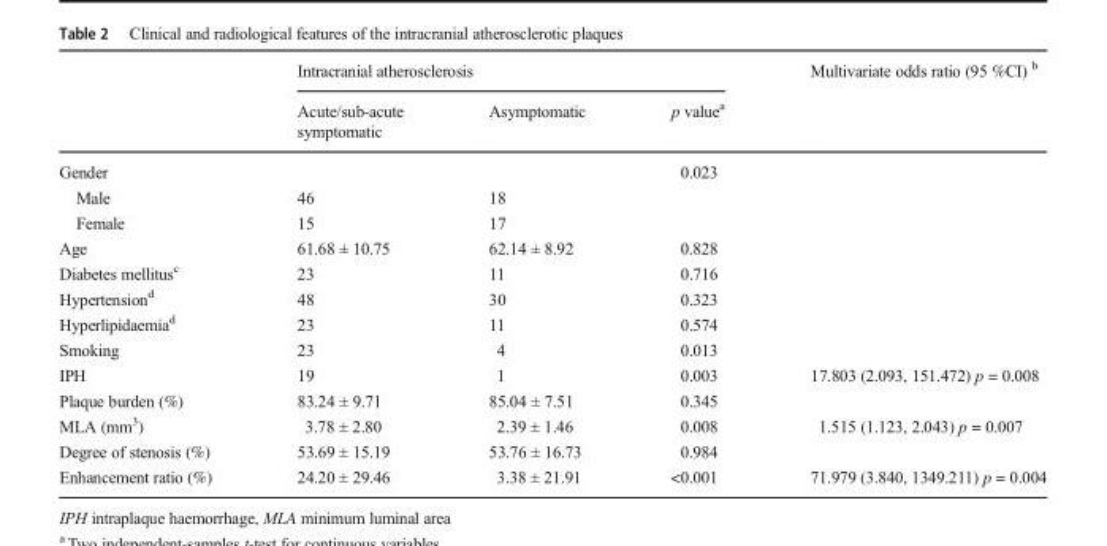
<table><thead><tr><td rowspan="2"></td><td colspan="3">Intracranial atherosclerosis</td><td rowspan="2">Multivariate odds ratio (95 %CI) <sup>b</sup></td></tr><tr><td>Acute/sub-acute symptomatic</td><td>Asymptomatic</td><td>p value<sup>a</sup></td></tr></thead><tbody><tr><td>Gender</td><td></td><td></td><td>0.023</td><td></td></tr><tr><td>Male</td><td>46</td><td>18</td><td></td><td></td></tr><tr><td>Female</td><td>15</td><td>17</td><td></td><td></td></tr><tr><td>Age</td><td>61.68 ± 10.75</td><td>62.14 ± 8.92</td><td>0.828</td><td></td></tr><tr><td>Diabetes mellitus<sup>c</sup></td><td>23</td><td>11</td><td>0.716</td><td></td></tr><tr><td>Hypertension<sup>d</sup></td><td>48</td><td>30</td><td>0.323</td><td></td></tr><tr><td>Hyperlipidaemia<sup>d</sup></td><td>23</td><td>11</td><td>0.574</td><td></td></tr><tr><td>Smoking</td><td>23</td><td>4</td><td>0.013</td><td></td></tr><tr><td>IPH</td><td>19</td><td>1</td><td>0.003</td><td>17.803 (2.093, 151.472) p = 0.008</td></tr><tr><td>Plaque burden (%)</td><td>83.24 ± 9.71</td><td>85.04 ± 7.51</td><td>0.345</td><td></td></tr><tr><td>MLA (mm<sup>3</sup>)</td><td>3.78 ± 2.80</td><td>2.39 ± 1.46</td><td>0.008</td><td>1.515 (1.123, 2.043) p = 0.007</td></tr><tr><td>Degree of stenosis (%)</td><td>53.69 ± 15.19</td><td>53.76 ± 16.73</td><td>0.984</td><td></td></tr><tr><td>Enhancement ratio (%)</td><td>24.20 ± 29.46</td><td>3.38 ± 21.91</td><td>&lt;0.001</td><td>71.979 (3.840, 1349.211) p = 0.004</td></tr></tbody></table>